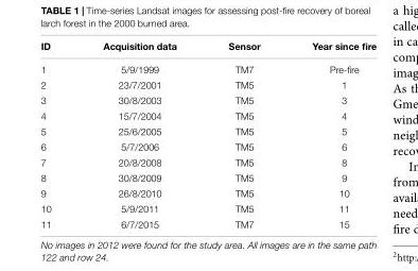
<table><thead><tr><td>ID</td><td>Acquisition data</td><td>Sensor</td><td>Year since fire</td></tr></thead><tbody><tr><td>1</td><td>5/9/1999</td><td>TM7</td><td>Pre-fire</td></tr><tr><td>2</td><td>23/7/2001</td><td>TM5</td><td>1</td></tr><tr><td>3</td><td>30/8/2003</td><td>TM5</td><td>3</td></tr><tr><td>4</td><td>15/7/2004</td><td>TM5</td><td>4</td></tr><tr><td>5</td><td>25/6/2005</td><td>TM5</td><td>5</td></tr><tr><td>6</td><td>5/7/2006</td><td>TM5</td><td>6</td></tr><tr><td>7</td><td>20/8/2008</td><td>TM5</td><td>8</td></tr><tr><td>8</td><td>30/8/2009</td><td>TM5</td><td>9</td></tr><tr><td>9</td><td>26/8/2010</td><td>TM5</td><td>10</td></tr><tr><td>10</td><td>5/9/2011</td><td>TM5</td><td>11</td></tr><tr><td>11</td><td>6/7/2015</td><td>TM7</td><td>15</td></tr></tbody></table>